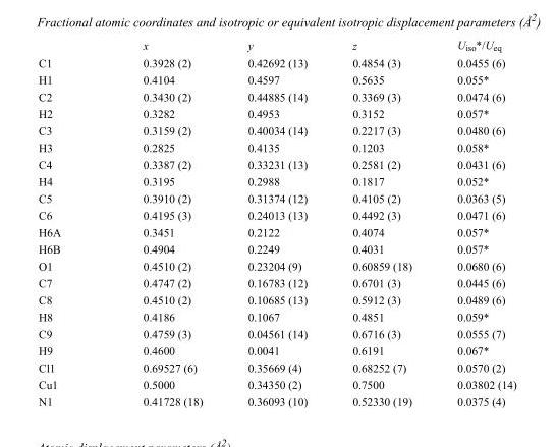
<table><thead><tr><td></td><td>x</td><td>y</td><td>z</td><td>U<sub>iso</sub>*/U<sub>eq</sub></td></tr></thead><tbody><tr><td>C1</td><td>0.3928 (2)</td><td>0.42692 (13)</td><td>0.4854 (3)</td><td>0.0455 (6)</td></tr><tr><td>H1</td><td>0.4104</td><td>0.4597</td><td>0.5635</td><td>0.055*</td></tr><tr><td>C2</td><td>0.3430 (2)</td><td>0.44885 (14)</td><td>0.3369 (3)</td><td>0.0474 (6)</td></tr><tr><td>H2</td><td>0.3282</td><td>0.4953</td><td>0.3152</td><td>0.057*</td></tr><tr><td>C3</td><td>0.3159 (2)</td><td>0.40034 (14)</td><td>0.2217 (3)</td><td>0.0480 (6)</td></tr><tr><td>H3</td><td>0.2825</td><td>0.4135</td><td>0.1203</td><td>0.058*</td></tr><tr><td>C4</td><td>0.3387 (2)</td><td>0.33231 (13)</td><td>0.2581 (2)</td><td>0.0431 (6)</td></tr><tr><td>H4</td><td>0.3195</td><td>0.2988</td><td>0.1817</td><td>0.052*</td></tr><tr><td>C5</td><td>0.3910 (2)</td><td>0.31374 (12)</td><td>0.4105 (2)</td><td>0.0363 (5)</td></tr><tr><td>C6</td><td>0.4195 (3)</td><td>0.24013 (13)</td><td>0.4492 (3)</td><td>0.0471 (6)</td></tr><tr><td>H6A</td><td>0.3451</td><td>0.2122</td><td>0.4074</td><td>0.057*</td></tr><tr><td>H6B</td><td>0.4904</td><td>0.2249</td><td>0.4031</td><td>0.057*</td></tr><tr><td>O1</td><td>0.4510 (2)</td><td>0.23204 (9)</td><td>0.60859 (18)</td><td>0.0680 (6)</td></tr><tr><td>C7</td><td>0.4747 (2)</td><td>0.16783 (12)</td><td>0.6701 (3)</td><td>0.0445 (6)</td></tr><tr><td>C8</td><td>0.4510 (2)</td><td>0.10685 (13)</td><td>0.5912 (3)</td><td>0.0489 (6)</td></tr><tr><td>H8</td><td>0.4186</td><td>0.1067</td><td>0.4851</td><td>0.059*</td></tr><tr><td>C9</td><td>0.4759 (3)</td><td>0.04561 (14)</td><td>0.6716 (3)</td><td>0.0555 (7)</td></tr><tr><td>H9</td><td>0.4600</td><td>0.0041</td><td>0.6191</td><td>0.067*</td></tr><tr><td>Cl1</td><td>0.69527 (6)</td><td>0.35669 (4)</td><td>0.68252 (7)</td><td>0.0570 (2)</td></tr><tr><td>Cu1</td><td>0.5000</td><td>0.34350 (2)</td><td>0.7500</td><td>0.03802 (14)</td></tr><tr><td>N1</td><td>0.41728 (18)</td><td>0.36093 (10)</td><td>0.52330 (19)</td><td>0.0375 (4)</td></tr></tbody></table>